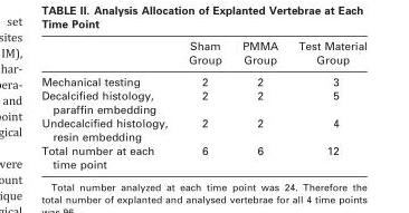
<table><thead><tr><td></td><td>Sham Group</td><td>PMMA Group</td><td>Test Material Group</td></tr></thead><tbody><tr><td>Mechanical testing</td><td>2</td><td>2</td><td>3</td></tr><tr><td>Decalcified histology, paraffin embedding</td><td>2</td><td>2</td><td>5</td></tr><tr><td>Undecalcified histology, resin embedding</td><td>2</td><td>2</td><td>4</td></tr><tr><td>Total number at each time point</td><td>6</td><td>6</td><td>12</td></tr></tbody></table>